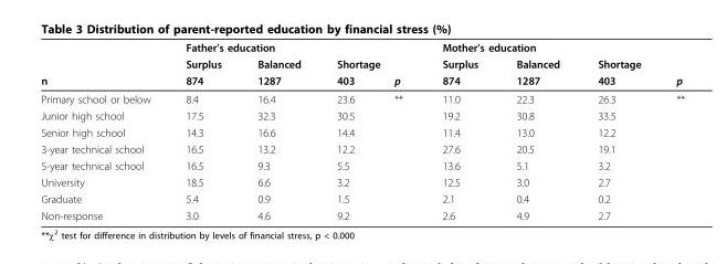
<table><thead><tr><td rowspan="3">n</td><td colspan="2">Father’s education</td><td></td><td></td><td colspan="2">Mother’s education</td><td rowspan="3">Shortage 403</td><td rowspan="3">p</td></tr><tr><td rowspan="2">Surplus 874</td><td rowspan="2">Balanced 1287</td><td colspan="2">Shortage</td><td rowspan="2">Surplus 874</td><td rowspan="2">Balanced 1287</td></tr><tr><td>403</td><td>p</td></tr></thead><tbody><tr><td>Primary school or below</td><td>8.4</td><td>16.4</td><td>23.6</td><td>**</td><td>11.0</td><td>22.3</td><td>26.3</td><td>**</td></tr><tr><td>Junior high school</td><td>17.5</td><td>32.3</td><td>30.5</td><td></td><td>19.2</td><td>30.8</td><td>33.5</td><td></td></tr><tr><td>Senior high school</td><td>14.3</td><td>16.6</td><td>14.4</td><td></td><td>11.4</td><td>13.0</td><td>12.2</td><td></td></tr><tr><td>3-year technical school</td><td>16.5</td><td>13.2</td><td>12.2</td><td></td><td>27.6</td><td>20.5</td><td>19.1</td><td></td></tr><tr><td>5-year technical school</td><td>16.5</td><td>9.3</td><td>5.5</td><td></td><td>13.6</td><td>5.1</td><td>3.2</td><td></td></tr><tr><td>University</td><td>18.5</td><td>6.6</td><td>3.2</td><td></td><td>12.5</td><td>3.0</td><td>2.7</td><td></td></tr><tr><td>Graduate</td><td>5.4</td><td>0.9</td><td>1.5</td><td></td><td>2.1</td><td>0.4</td><td>0.2</td><td></td></tr><tr><td>Non-response</td><td>3.0</td><td>4.6</td><td>9.2</td><td></td><td>2.6</td><td>4.9</td><td>2.7</td><td></td></tr></tbody></table>